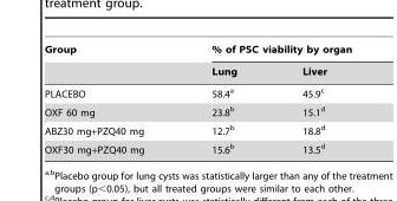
<table><thead><tr><td rowspan="2">Group</td><td colspan="2">% of PSC viability by organ</td></tr><tr><td>Lung</td><td>Liver</td></tr></thead><tbody><tr><td>PLACEBO</td><td>58.4<sup>a</sup></td><td>45.9<sup>c</sup></td></tr><tr><td>OXF 60 mg</td><td>23.8<sup>b</sup></td><td>15.1<sup>d</sup></td></tr><tr><td>ABZ30 mg+PZQ40 mg</td><td>12.7<sup>b</sup></td><td>18.8<sup>d</sup></td></tr><tr><td>OXF30 mg+PZQ40 mg</td><td>15.6<sup>b</sup></td><td>13.5<sup>d</sup></td></tr></tbody></table>